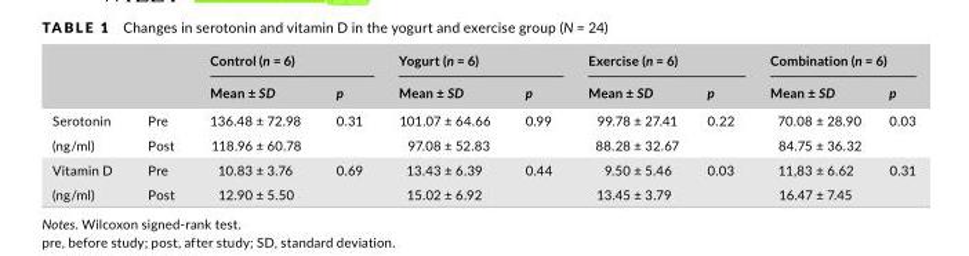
<table><thead><tr><td rowspan="2"></td><td rowspan="2"></td><td colspan="2">Control (n = 6)</td><td colspan="2">Yogurt (n = 6)</td><td colspan="2">Exercise (n = 6)</td><td colspan="2">Combination (n = 6)</td></tr><tr><td>Mean ± SD</td><td>p</td><td>Mean ± SD</td><td>p</td><td>Mean ± SD</td><td>p</td><td>Mean ± SD</td><td>p</td></tr></thead><tbody><tr><td>Serotonin</td><td>Pre</td><td>136.48 ± 72.98</td><td rowspan="2">0.31</td><td>101.07 ± 64.66</td><td rowspan="2">0.99</td><td>99.78 ± 27.41</td><td rowspan="2">0.22</td><td>70.08 ± 28.90</td><td rowspan="2">0.03</td></tr><tr><td>(ng/ml)</td><td>Post</td><td>118.96 ± 60.78</td><td>97.08 ± 52.83</td><td>88.28 ± 32.67</td><td>84.75 ± 36.32</td></tr><tr><td>Vitamin D</td><td>Pre</td><td>10.83 ± 3.76</td><td rowspan="2">0.69</td><td>13.43 ± 6.39</td><td rowspan="2">0.44</td><td>9.50 ± 5.46</td><td rowspan="2">0.03</td><td>11,83 ± 6.62</td><td rowspan="2">0.31</td></tr><tr><td>(ng/ml)</td><td>Post</td><td>12.90 ± 5.50</td><td>15.02 ± 6.92</td><td>13.45 ± 3.79</td><td>16.47 ± 7.45</td></tr></tbody></table>